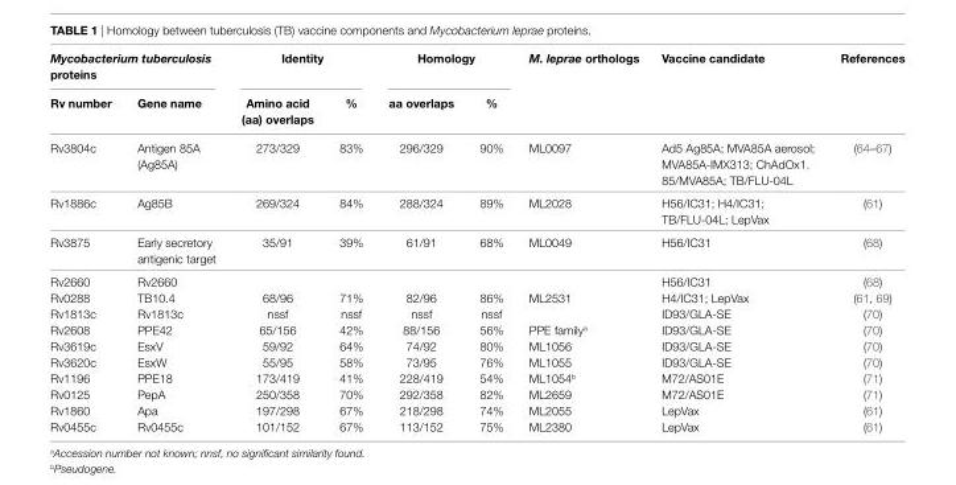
<table><thead><tr><td colspan="2">Mycobacterium tuberculosis proteins</td><td colspan="2">Identity</td><td colspan="2">Homology</td><td rowspan="2">M. leprae orthologs</td><td rowspan="2">Vaccine candidate</td><td rowspan="2">References</td></tr><tr><td>Rv number</td><td>Gene name</td><td>Amino acid (aa) overlaps</td><td>%</td><td>aa overlaps</td><td>%</td></tr></thead><tbody><tr><td>Rv3804c</td><td>Antigen 85A (Ag85A)</td><td>273/329</td><td>83%</td><td>296/329</td><td>90%</td><td>ML0097</td><td>Ad5 Ag85A; MVA85A aerosol; MVA85A-IMX313; ChAdOx1. 85/MVA85A; TB/FLU-04L</td><td>(64–67)</td></tr><tr><td>Rv1886c</td><td>Ag85B</td><td>269/324</td><td>84%</td><td>288/324</td><td>89%</td><td>ML2028</td><td>H56/IC31; H4/IC31; TB/FLU-04L; LepVax</td><td>(61)</td></tr><tr><td>Rv3875</td><td>Early secretory antigenic target</td><td>35/91</td><td>39%</td><td>61/91</td><td>68%</td><td>ML0049</td><td>H56/IC31</td><td>(68)</td></tr><tr><td>Rv2660</td><td>Rv2660</td><td></td><td></td><td></td><td></td><td></td><td>H56/IC31</td><td>(68)</td></tr><tr><td>Rv0288</td><td>TB10.4</td><td>68/96</td><td>71%</td><td>82/96</td><td>86%</td><td>ML2531</td><td>H4/IC31; LepVax</td><td>(61, 69)</td></tr><tr><td>Rv1813c</td><td>Rv1813c</td><td>nssf</td><td>nssf</td><td>nssf</td><td>nssf</td><td></td><td>ID93/GLA-SE</td><td>(70)</td></tr><tr><td>Rv2608</td><td>PPE42</td><td>65/156</td><td>42%</td><td>88/156</td><td>56%</td><td>PPE family<sup>a</sup></td><td>ID93/GLA-SE</td><td>(70)</td></tr><tr><td>Rv3619c</td><td>EsxV</td><td>59/92</td><td>64%</td><td>74/92</td><td>80%</td><td>ML1056</td><td>ID93/GLA-SE</td><td>(70)</td></tr><tr><td>Rv3620c</td><td>EsxW</td><td>55/95</td><td>58%</td><td>73/95</td><td>76%</td><td>ML1055</td><td>ID93/GLA-SE</td><td>(70)</td></tr><tr><td>Rv1196</td><td>PPE18</td><td>173/419</td><td>41%</td><td>228/419</td><td>54%</td><td>ML1054<sup>b</sup></td><td>M72/AS01E</td><td>(71)</td></tr><tr><td>Rv0125</td><td>PepA</td><td>250/358</td><td>70%</td><td>292/358</td><td>82%</td><td>ML2659</td><td>M72/AS01E</td><td>(71)</td></tr><tr><td>Rv1860</td><td>Apa</td><td>197/298</td><td>67%</td><td>218/298</td><td>74%</td><td>ML2055</td><td>LepVax</td><td>(61)</td></tr><tr><td>Rv0455c</td><td>Rv0455c</td><td>101/152</td><td>67%</td><td>113/152</td><td>75%</td><td>ML2380</td><td>LepVax</td><td>(61)</td></tr></tbody></table>